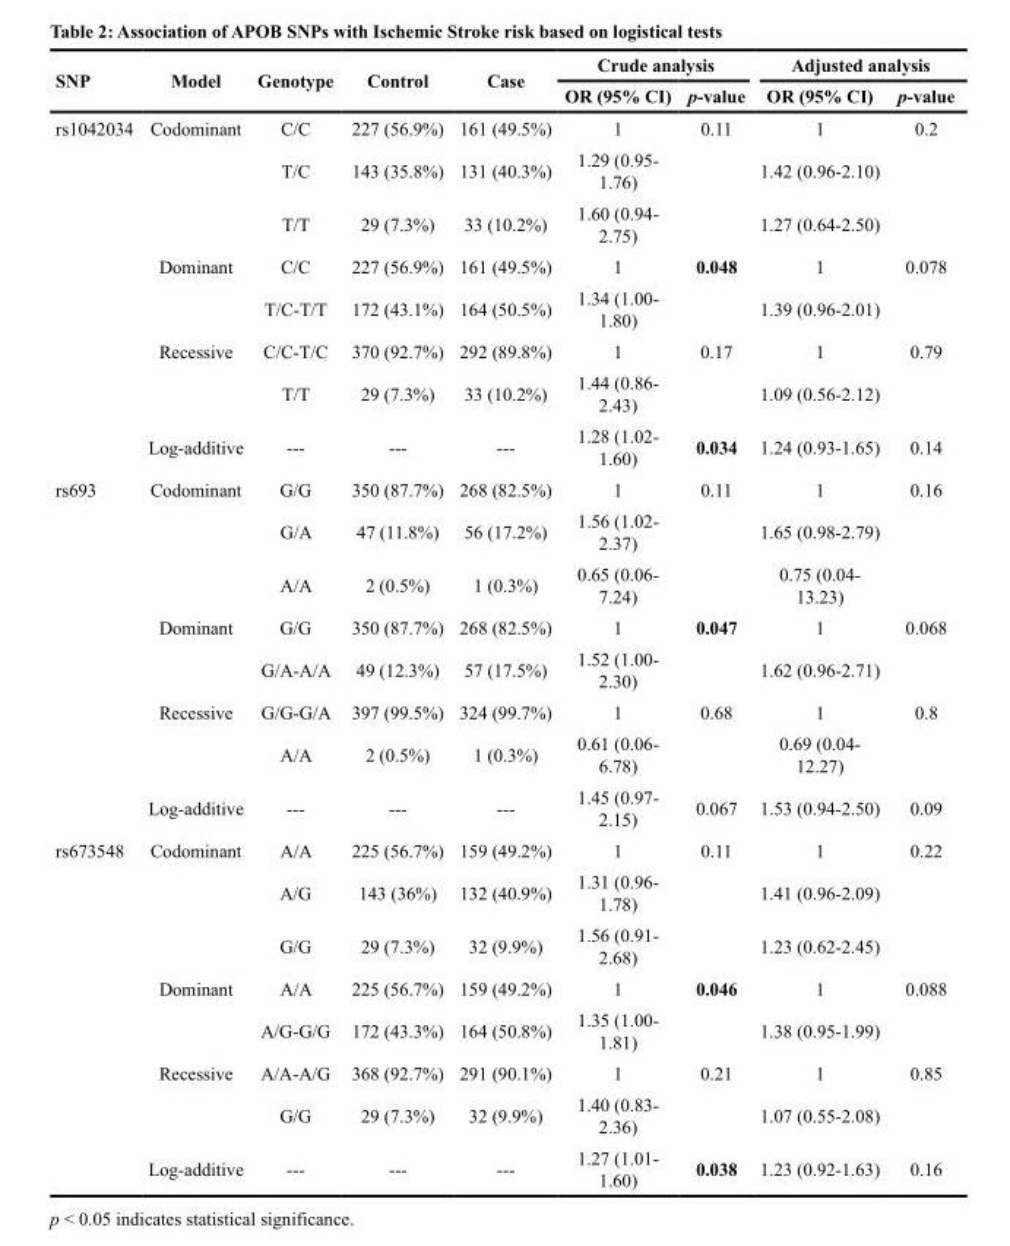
<table><thead><tr><td rowspan="2">SNP</td><td rowspan="2">Model</td><td rowspan="2">Genotype</td><td rowspan="2">Control</td><td rowspan="2">Case</td><td colspan="2">Crude analysis</td><td colspan="2">Adjusted analysis</td></tr><tr><td>OR (95% CI)</td><td>p-value</td><td>OR (95% CI)</td><td>p-value</td></tr></thead><tbody><tr><td rowspan="8">rs1042034</td><td>Codominant</td><td>C/C</td><td>227 (56.9%)</td><td>161 (49.5%)</td><td>1</td><td>0.11</td><td>1</td><td>0.2</td></tr><tr><td></td><td>T/C</td><td>143 (35.8%)</td><td>131 (40.3%)</td><td>1.29 (0.95- 1.76)</td><td></td><td>1.42 (0.96-2.10)</td><td></td></tr><tr><td></td><td>T/T</td><td>29 (7.3%)</td><td>33 (10.2%)</td><td>1.60 (0.94- 2.75)</td><td></td><td>1.27 (0.64-2.50)</td><td></td></tr><tr><td>Dominant</td><td>C/C</td><td>227 (56.9%)</td><td>161 (49.5%)</td><td>1</td><td>0.048</td><td>1</td><td>0.078</td></tr><tr><td></td><td>T/C-T/T</td><td>172 (43.1%)</td><td>164 (50.5%)</td><td>1.34 (1.00- 1.80)</td><td></td><td>1.39 (0.96-2.01)</td><td></td></tr><tr><td>Recessive</td><td>C/C-T/C</td><td>370 (92.7%)</td><td>292 (89.8%)</td><td>1</td><td>0.17</td><td>1</td><td>0.79</td></tr><tr><td></td><td>T/T</td><td>29 (7.3%)</td><td>33 (10.2%)</td><td>1.44 (0.86- 2.43)</td><td></td><td>1.09 (0.56-2.12)</td><td></td></tr><tr><td>Log-additive</td><td>---</td><td>---</td><td>---</td><td>1.28 (1.02- 1.60)</td><td>0.034</td><td>1.24 (0.93-1.65)</td><td>0.14</td></tr><tr><td rowspan="8">rs693</td><td>Codominant</td><td>G/G</td><td>350 (87.7%)</td><td>268 (82.5%)</td><td>1</td><td>0.11</td><td>1</td><td>0.16</td></tr><tr><td></td><td>G/A</td><td>47 (11.8%)</td><td>56 (17.2%)</td><td>1.56 (1.02- 2.37)</td><td></td><td>1.65 (0.98-2.79)</td><td></td></tr><tr><td></td><td>A/A</td><td>2 (0.5%)</td><td>1 (0.3%)</td><td>0.65 (0.06- 7.24)</td><td></td><td>0.75 (0.04- 13.23)</td><td></td></tr><tr><td>Dominant</td><td>G/G</td><td>350 (87.7%)</td><td>268 (82.5%)</td><td>1</td><td>0.047</td><td>1</td><td>0.068</td></tr><tr><td></td><td>G/A-A/A</td><td>49 (12.3%)</td><td>57 (17.5%)</td><td>1.52 (1.00- 2.30)</td><td></td><td>1.62 (0.96-2.71)</td><td></td></tr><tr><td>Recessive</td><td>G/G-G/A</td><td>397 (99.5%)</td><td>324 (99.7%)</td><td>1</td><td>0.68</td><td>1</td><td>0.8</td></tr><tr><td></td><td>A/A</td><td>2 (0.5%)</td><td>1 (0.3%)</td><td>0.61 (0.06- 6.78)</td><td></td><td>0.69 (0.04- 12.27)</td><td></td></tr><tr><td>Log-additive</td><td>---</td><td>---</td><td>---</td><td>1.45 (0.97- 2.15)</td><td>0.067</td><td>1.53 (0.94-2.50)</td><td>0.09</td></tr><tr><td rowspan="8">rs673548</td><td>Codominant</td><td>A/A</td><td>225 (56.7%)</td><td>159 (49.2%)</td><td>1</td><td>0.11</td><td>1</td><td>0.22</td></tr><tr><td></td><td>A/G</td><td>143 (36%)</td><td>132 (40.9%)</td><td>1.31 (0.96- 1.78)</td><td></td><td>1.41 (0.96-2.09)</td><td></td></tr><tr><td></td><td>G/G</td><td>29 (7.3%)</td><td>32 (9.9%)</td><td>1.56 (0.91- 2.68)</td><td></td><td>1.23 (0.62-2.45)</td><td></td></tr><tr><td>Dominant</td><td>A/A</td><td>225 (56.7%)</td><td>159 (49.2%)</td><td>1</td><td>0.046</td><td>1</td><td>0.088</td></tr><tr><td></td><td>A/G-G/G</td><td>172 (43.3%)</td><td>164 (50.8%)</td><td>1.35 (1.00- 1.81)</td><td></td><td>1.38 (0.95-1.99)</td><td></td></tr><tr><td>Recessive</td><td>A/A-A/G</td><td>368 (92.7%)</td><td>291 (90.1%)</td><td>1</td><td>0.21</td><td>1</td><td>0.85</td></tr><tr><td></td><td>G/G</td><td>29 (7.3%)</td><td>32 (9.9%)</td><td>1.40 (0.83- 2.36)</td><td></td><td>1.07 (0.55-2.08)</td><td></td></tr><tr><td>Log-additive</td><td>---</td><td>---</td><td>---</td><td>1.27 (1.01- 1.60)</td><td>0.038</td><td>1.23 (0.92-1.63)</td><td>0.16</td></tr></tbody></table>